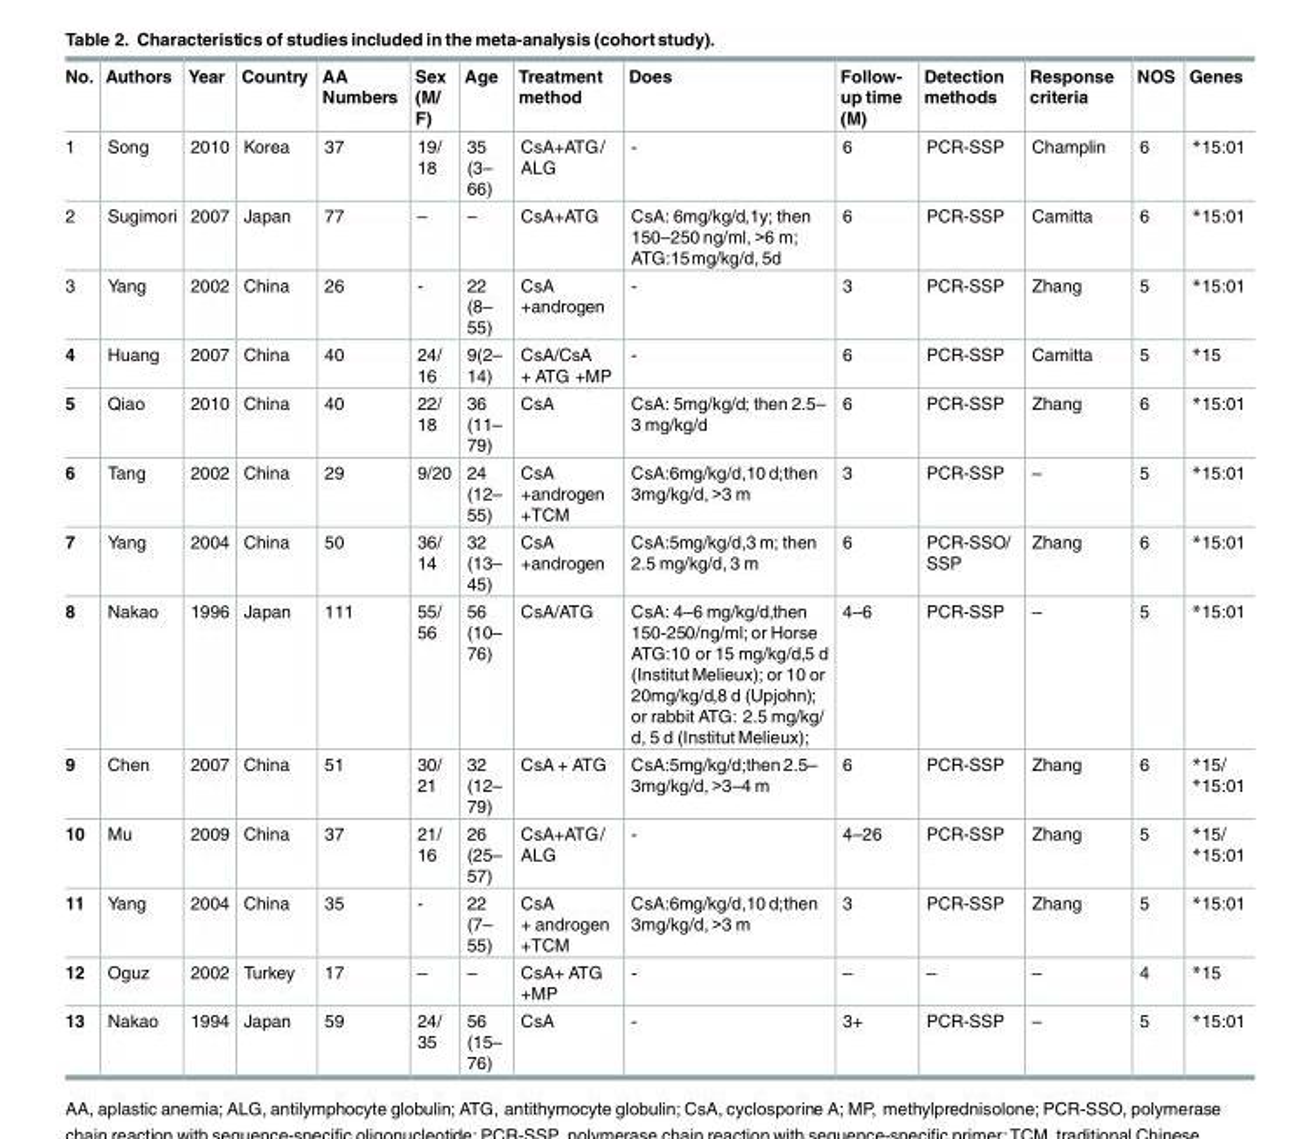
<table><thead><tr><td>No.</td><td>Authors</td><td>Year</td><td>Country</td><td>AA Numbers</td><td>Sex (M/ F)</td><td>Age</td><td>Treatment method</td><td>Does</td><td>Follow- up time (M)</td><td>Detection methods</td><td>Response criteria</td><td>NOS</td><td>Genes</td></tr></thead><tbody><tr><td>1</td><td>Song</td><td>2010</td><td>Korea</td><td>37</td><td>19/ 18</td><td>35 (3– 66)</td><td>CsA+ATG/ ALG</td><td>-</td><td>6</td><td>PCR-SSP</td><td>Champlin</td><td>6</td><td>*15:01</td></tr><tr><td>2</td><td>Sugimori</td><td>2007</td><td>Japan</td><td>77</td><td>–</td><td>–</td><td>CsA+ATG</td><td>CsA: 6mg/kg/d,1y; then 150–250 ng/ml, &gt;6 m; ATG:15mg/kg/d, 5d</td><td>6</td><td>PCR-SSP</td><td>Camitta</td><td>6</td><td>*15:01</td></tr><tr><td>3</td><td>Yang</td><td>2002</td><td>China</td><td>26</td><td>-</td><td>22 (8– 55)</td><td>CsA +androgen</td><td>-</td><td>3</td><td>PCR-SSP</td><td>Zhang</td><td>5</td><td>*15:01</td></tr><tr><td>4</td><td>Huang</td><td>2007</td><td>China</td><td>40</td><td>24/ 16</td><td>9(2– 14)</td><td>CsA/CsA + ATG +MP</td><td>-</td><td>6</td><td>PCR-SSP</td><td>Camitta</td><td>5</td><td>*15</td></tr><tr><td>5</td><td>Qiao</td><td>2010</td><td>China</td><td>40</td><td>22/ 18</td><td>36 (11– 79)</td><td>CsA</td><td>CsA: 5mg/kg/d; then 2.5– 3 mg/kg/d</td><td>6</td><td>PCR-SSP</td><td>Zhang</td><td>6</td><td>*15:01</td></tr><tr><td>6</td><td>Tang</td><td>2002</td><td>China</td><td>29</td><td>9/20</td><td>24 (12– 55)</td><td>CsA +androgen +TCM</td><td>CsA:6mg/kg/d,10 d;then 3mg/kg/d, &gt;3 m</td><td>3</td><td>PCR-SSP</td><td>–</td><td>5</td><td>*15:01</td></tr><tr><td>7</td><td>Yang</td><td>2004</td><td>China</td><td>50</td><td>36/ 14</td><td>32 (13– 45)</td><td>CsA +androgen</td><td>CsA:5mg/kg/d,3 m; then 2.5 mg/kg/d, 3 m</td><td>6</td><td>PCR-SSO/ SSP</td><td>Zhang</td><td>6</td><td>*15:01</td></tr><tr><td>8</td><td>Nakao</td><td>1996</td><td>Japan</td><td>111</td><td>55/ 56</td><td>56 (10– 76)</td><td>CsA/ATG</td><td>CsA: 4–6 mg/kg/d,then 150-250/ng/ml; or Horse ATG:10 or 15 mg/kg/d,5 d (Institut Melieux); or 10 or 20mg/kg/d,8 d (Upjohn); or rabbit ATG: 2.5 mg/kg/ d, 5 d (Institut Melieux);</td><td>4–6</td><td>PCR-SSP</td><td>–</td><td>5</td><td>*15:01</td></tr><tr><td>9</td><td>Chen</td><td>2007</td><td>China</td><td>51</td><td>30/ 21</td><td>32 (12– 79)</td><td>CsA + ATG</td><td>CsA:5mg/kg/d;then 2.5– 3mg/kg/d, &gt;3–4 m</td><td>6</td><td>PCR-SSP</td><td>Zhang</td><td>6</td><td>*15/ *15:01</td></tr><tr><td>10</td><td>Mu</td><td>2009</td><td>China</td><td>37</td><td>21/ 16</td><td>26 (25– 57)</td><td>CsA+ATG/ ALG</td><td>-</td><td>4–26</td><td>PCR-SSP</td><td>Zhang</td><td>5</td><td>*15/ *15:01</td></tr><tr><td>11</td><td>Yang</td><td>2004</td><td>China</td><td>35</td><td>-</td><td>22 (7– 55)</td><td>CsA + androgen +TCM</td><td>CsA:6mg/kg/d,10 d;then 3mg/kg/d, &gt;3 m</td><td>3</td><td>PCR-SSP</td><td>Zhang</td><td>5</td><td>*15:01</td></tr><tr><td>12</td><td>Oguz</td><td>2002</td><td>Turkey</td><td>17</td><td>–</td><td>–</td><td>CsA+ ATG +MP</td><td>-</td><td>–</td><td>–</td><td>–</td><td>4</td><td>*15</td></tr><tr><td>13</td><td>Nakao</td><td>1994</td><td>Japan</td><td>59</td><td>24/ 35</td><td>56 (15– 76)</td><td>CsA</td><td>-</td><td>3+</td><td>PCR-SSP</td><td>–</td><td>5</td><td>*15:01</td></tr></tbody></table>